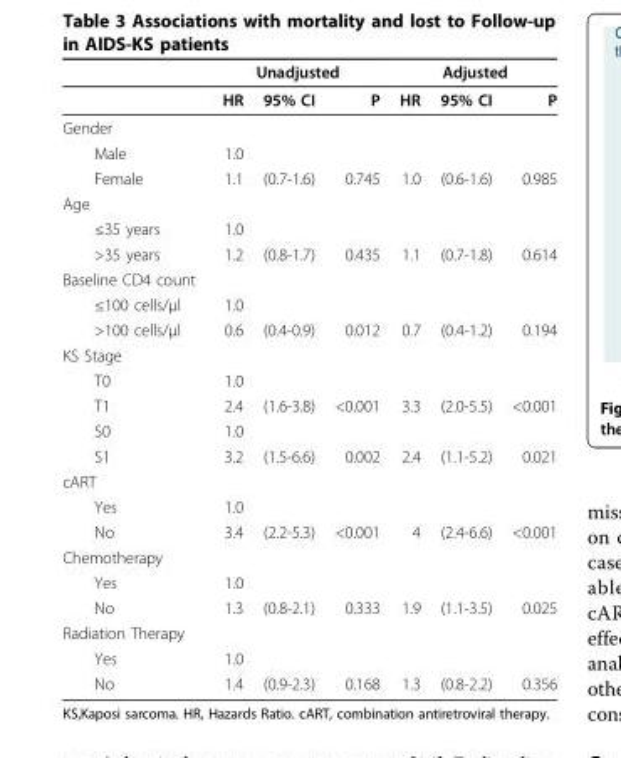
<table><thead><tr><td rowspan="2"></td><td colspan="3">Unadjusted</td><td colspan="3">Adjusted</td></tr><tr><td>HR</td><td>95% CI</td><td>P</td><td>HR</td><td>95% CI</td><td>P</td></tr></thead><tbody><tr><td colspan="7">Gender</td></tr><tr><td>Male</td><td>1.0</td><td></td><td></td><td></td><td></td><td></td></tr><tr><td>Female</td><td>1.1</td><td>(0.7-1.6)</td><td>0.745</td><td>1.0</td><td>(0.6-1.6)</td><td>0.985</td></tr><tr><td colspan="7">Age</td></tr><tr><td>≤35 years</td><td>1.0</td><td></td><td></td><td></td><td></td><td></td></tr><tr><td>&gt;35 years</td><td>1.2</td><td>(0.8-1.7)</td><td>0.435</td><td>1.1</td><td>(0.7-1.8)</td><td>0.614</td></tr><tr><td colspan="7">Baseline CD4 count</td></tr><tr><td>≤100 cells/μl</td><td>1.0</td><td></td><td></td><td></td><td></td><td></td></tr><tr><td>&gt;100 cells/μl</td><td>0.6</td><td>(0.4-0.9)</td><td>0.012</td><td>0.7</td><td>(0.4-1.2)</td><td>0.194</td></tr><tr><td colspan="7">KS Stage</td></tr><tr><td>T0</td><td>1.0</td><td></td><td></td><td></td><td></td><td></td></tr><tr><td>T1</td><td>2.4</td><td>(1.6-3.8)</td><td>&lt;0.001</td><td>3.3</td><td>(2.0-5.5)</td><td>&lt;0.001</td></tr><tr><td>S0</td><td>1.0</td><td></td><td></td><td></td><td></td><td></td></tr><tr><td>S1</td><td>3.2</td><td>(1.5-6.6)</td><td>0.002</td><td>2.4</td><td>(1.1-5.2)</td><td>0.021</td></tr><tr><td colspan="7">cART</td></tr><tr><td>Yes</td><td>1.0</td><td></td><td></td><td></td><td></td><td></td></tr><tr><td>No</td><td>3.4</td><td>(2.2-5.3)</td><td>&lt;0.001</td><td>4</td><td>(2.4-6.6)</td><td>&lt;0.001</td></tr><tr><td colspan="7">Chemotherapy</td></tr><tr><td>Yes</td><td>1.0</td><td></td><td></td><td></td><td></td><td></td></tr><tr><td>No</td><td>1.3</td><td>(0.8-2.1)</td><td>0.333</td><td>1.9</td><td>(1.1-3.5)</td><td>0.025</td></tr><tr><td colspan="7">Radiation Therapy</td></tr><tr><td>Yes</td><td>1.0</td><td></td><td></td><td></td><td></td><td></td></tr><tr><td>No</td><td>1.4</td><td>(0.9-2.3)</td><td>0.168</td><td>1.3</td><td>(0.8-2.2)</td><td>0.356</td></tr></tbody></table>